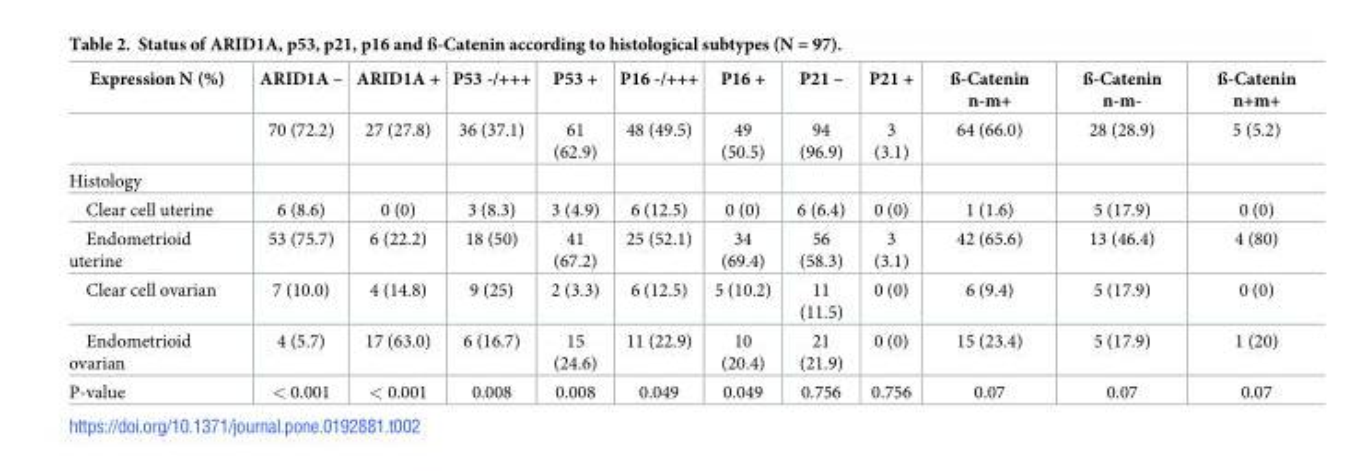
<table><thead><tr><td>Expression N (%)</td><td>ARID1A –</td><td>ARID1A +</td><td>P53 -/+++</td><td>P53 +</td><td>P16 -/+++</td><td>P16 +</td><td>P21 –</td><td>P21 +</td><td>ß-Catenin n-m+</td><td>ß-Catenin n-m-</td><td>ß-Catenin n+m+</td></tr></thead><tbody><tr><td></td><td>70 (72.2)</td><td>27 (27.8)</td><td>36 (37.1)</td><td>61 (62.9)</td><td>48 (49.5)</td><td>49 (50.5)</td><td>94 (96.9)</td><td>3 (3.1)</td><td>64 (66.0)</td><td>28 (28.9)</td><td>5 (5.2)</td></tr><tr><td colspan="12">Histology</td></tr><tr><td>Clear cell uterine</td><td>6 (8.6)</td><td>0 (0)</td><td>3 (8.3)</td><td>3 (4.9)</td><td>6 (12.5)</td><td>0 (0)</td><td>6 (6.4)</td><td>0 (0)</td><td>1 (1.6)</td><td>5 (17.9)</td><td>0 (0)</td></tr><tr><td>Endometrioid uterine</td><td>53 (75.7)</td><td>6 (22.2)</td><td>18 (50)</td><td>41 (67.2)</td><td>25 (52.1)</td><td>34 (69.4)</td><td>56 (58.3)</td><td>3 (3.1)</td><td>42 (65.6)</td><td>13 (46.4)</td><td>4 (80)</td></tr><tr><td>Clear cell ovarian</td><td>7 (10.0)</td><td>4 (14.8)</td><td>9 (25)</td><td>2 (3.3)</td><td>6 (12.5)</td><td>5 (10.2)</td><td>11 (11.5)</td><td>0 (0)</td><td>6 (9.4)</td><td>5 (17.9)</td><td>0 (0)</td></tr><tr><td>Endometrioid ovarian</td><td>4 (5.7)</td><td>17 (63.0)</td><td>6 (16.7)</td><td>15 (24.6)</td><td>11 (22.9)</td><td>10 (20.4)</td><td>21 (21.9)</td><td>0 (0)</td><td>15 (23.4)</td><td>5 (17.9)</td><td>1 (20)</td></tr><tr><td>P-value</td><td>&lt; 0.001</td><td>&lt; 0.001</td><td>0.008</td><td>0.008</td><td>0.049</td><td>0.049</td><td>0.756</td><td>0.756</td><td>0.07</td><td>0.07</td><td>0.07</td></tr></tbody></table>